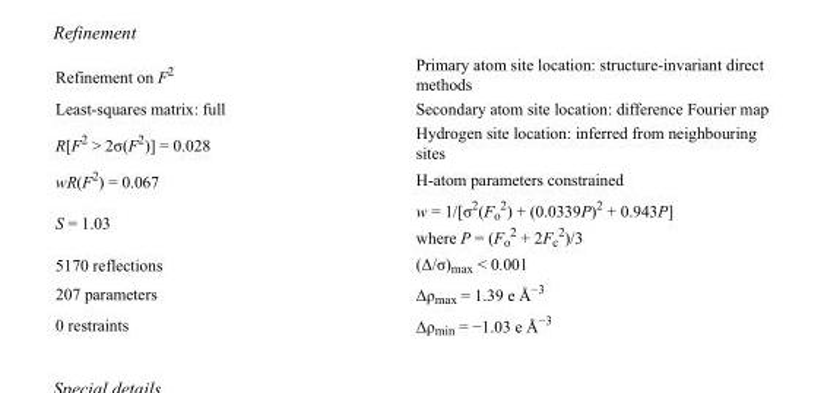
<table><tbody><tr><td>Refinement on F<sup>2</sup></td><td>Primary atom site location: structure-invariant direct methods</td></tr><tr><td>Least-squares matrix: full</td><td>Secondary atom site location: difference Fourier map</td></tr><tr><td>R[F<sup>2</sup> &gt; 2σ(F<sup>2</sup>)] = 0.028</td><td>Hydrogen site location: inferred from neighbouring sites</td></tr><tr><td>wR(F<sup>2</sup>) = 0.067</td><td>H-atom parameters constrained</td></tr><tr><td>S = 1.03</td><td>w = 1/[σ<sup>2</sup>(F<sub>o</sub> <sup>2</sup>) + (0.0339P)<sup>2</sup> + 0.943P] where P = (F<sub>o</sub> <sup>2</sup> + 2F<sub>c</sub> <sup>2</sup>)/3</td></tr><tr><td>5170 reflections</td><td>(Δ/σ)<sub>max</sub> &lt; 0.001</td></tr><tr><td>207 parameters</td><td>Δρ<sub>max</sub> = 1.39 e Å<sup>−3</sup></td></tr><tr><td>0 restraints</td><td>Δρ<sub>min</sub> = −1.03 e Å<sup>−3</sup></td></tr></tbody></table>